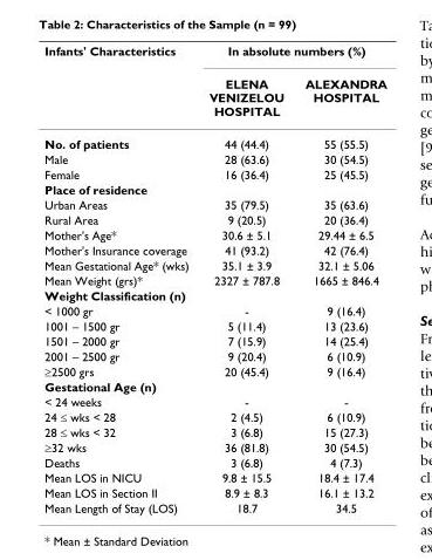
<table><thead><tr><td rowspan="2">Infants&#x27; Characteristics</td><td colspan="2">In absolute numbers (%)</td></tr><tr><td>ELENA VENIZELOU HOSPITAL</td><td>ALEXANDRA HOSPITAL</td></tr></thead><tbody><tr><td>No. of patients</td><td>44 (44.4)</td><td>55 (55.5)</td></tr><tr><td>Male</td><td>28 (63.6)</td><td>30 (54.5)</td></tr><tr><td>Female</td><td>16 (36.4)</td><td>25 (45.5)</td></tr><tr><td colspan="3">Place of residence</td></tr><tr><td>Urban Areas</td><td>35 (79.5)</td><td>35 (63.6)</td></tr><tr><td>Rural Area</td><td>9 (20.5)</td><td>20 (36.4)</td></tr><tr><td>Mother&#x27;s Age*</td><td>30.6 ± 5.1</td><td>29.44 ± 6.5</td></tr><tr><td>Mother&#x27;s Insurance coverage</td><td>41 (93.2)</td><td>42 (76.4)</td></tr><tr><td>Mean Gestational Age* (wks)</td><td>35.1 ± 3.9</td><td>32.1 ± 5.06</td></tr><tr><td>Mean Weight (grs)*</td><td>2327 ± 787.8</td><td>1665 ± 846.4</td></tr><tr><td colspan="3">Weight Classification (n)</td></tr><tr><td>&lt; 1000 gr</td><td>-</td><td>9 (16.4)</td></tr><tr><td>1001 – 1500 gr</td><td>5 (11.4)</td><td>13 (23.6)</td></tr><tr><td>1501 – 2000 gr</td><td>7 (15.9)</td><td>14 (25.4)</td></tr><tr><td>2001 – 2500 gr</td><td>9 (20.4)</td><td>6 (10.9)</td></tr><tr><td>≥2500 grs</td><td>20 (45.4)</td><td>9 (16.4)</td></tr><tr><td colspan="3">Gestational Age (n)</td></tr><tr><td>&lt; 24 weeks</td><td>-</td><td>-</td></tr><tr><td>24 ≤ wks &lt; 28</td><td>2 (4.5)</td><td>6 (10.9)</td></tr><tr><td>28 ≤ wks &lt; 32</td><td>3 (6.8)</td><td>15 (27.3)</td></tr><tr><td>≥32 wks</td><td>36 (81.8)</td><td>30 (54.5)</td></tr><tr><td>Deaths</td><td>3 (6.8)</td><td>4 (7.3)</td></tr><tr><td>Mean LOS in NICU</td><td>9.8 ± 15.5</td><td>18.4 ± 17.4</td></tr><tr><td>Mean LOS in Section II</td><td>8.9 ± 8.3</td><td>16.1 ± 13.2</td></tr><tr><td>Mean Length of Stay (LOS)</td><td>18.7</td><td>34.5</td></tr></tbody></table>